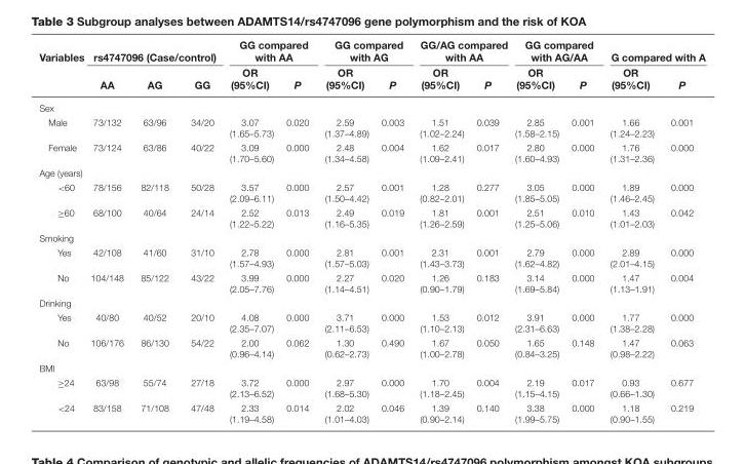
<table><thead><tr><td rowspan="2">Variables</td><td colspan="3">rs4747096 (Case/control)</td><td colspan="2">GG compared with AA</td><td colspan="2">GG compared with AG</td><td colspan="2">GG/AG compared with AA</td><td colspan="2">GG compared with AG/AA</td><td colspan="2">G compared with A</td></tr><tr><td>AA</td><td>AG</td><td>GG</td><td>OR (95%CI)</td><td>P</td><td>OR (95%CI)</td><td>P</td><td>OR (95%CI)</td><td>P</td><td>OR (95%CI)</td><td>P</td><td>OR (95%CI)</td><td>P</td></tr></thead><tbody><tr><td colspan="14">Sex</td></tr><tr><td>Male</td><td>73/132</td><td>63/96</td><td>34/20</td><td>3.07 (1.65–5.73)</td><td>0.020</td><td>2.59 (1.37–4.89)</td><td>0.003</td><td>1.51 (1.02–2.24)</td><td>0.039</td><td>2.85 (1.58–2.15)</td><td>0.001</td><td>1.66 (1.24–2.23)</td><td>0.001</td></tr><tr><td>Female</td><td>73/124</td><td>63/86</td><td>40/22</td><td>3.09 (1.70–5.60)</td><td>0.000</td><td>2.48 (1.34–4.58)</td><td>0.004</td><td>1.62 (1.09–2.41)</td><td>0.017</td><td>2.80 (1.60–4.93)</td><td>0.000</td><td>1.76 (1.31–2.36)</td><td>0.000</td></tr><tr><td colspan="14">Age (years)</td></tr><tr><td>&lt;60</td><td>78/156</td><td>82/118</td><td>50/28</td><td>3.57 (2.09–6.11)</td><td>0.000</td><td>2.57 (1.50–4.42)</td><td>0.001</td><td>1.28 (0.82–2.01)</td><td>0.277</td><td>3.05 (1.85–5.05)</td><td>0.000</td><td>1.89 (1.46–2.45)</td><td>0.000</td></tr><tr><td>≥60</td><td>68/100</td><td>40/64</td><td>24/14</td><td>2.52 (1.22–5.22)</td><td>0.013</td><td>2.49 (1.16–5.35)</td><td>0.019</td><td>1.81 (1.26–2.59)</td><td>0.001</td><td>2.51 (1.25–5.06)</td><td>0.010</td><td>1.43 (1.01–2.03)</td><td>0.042</td></tr><tr><td colspan="14">Smoking</td></tr><tr><td>Yes</td><td>42/108</td><td>41/60</td><td>31/10</td><td>2.78 (1.57–4.93)</td><td>0.000</td><td>2.81 (1.57–5.03)</td><td>0.001</td><td>2.31 (1.43–3.73)</td><td>0.001</td><td>2.79 (1.62–4.82)</td><td>0.000</td><td>2.89 (2.01–4.15)</td><td>0.000</td></tr><tr><td>No</td><td>104/148</td><td>85/122</td><td>43/22</td><td>3.99 (2.05–7.76)</td><td>0.000</td><td>2.27 (1.14–4.51)</td><td>0.020</td><td>1.26 (0.90–1.79)</td><td>0.183</td><td>3.14 (1.69–5.84)</td><td>0.000</td><td>1.47 (1.13–1.91)</td><td>0.004</td></tr><tr><td colspan="14">Drinking</td></tr><tr><td>Yes</td><td>40/80</td><td>40/52</td><td>20/10</td><td>4.08 (2.35–7.07)</td><td>0.000</td><td>3.71 (2.11–6.53)</td><td>0.000</td><td>1.53 (1.10–2.13)</td><td>0.012</td><td>3.91 (2.31–6.63)</td><td>0.000</td><td>1.77 (1.38–2.28)</td><td>0.000</td></tr><tr><td>No</td><td>106/176</td><td>86/130</td><td>54/22</td><td>2.00 (0.96–4.14)</td><td>0.062</td><td>1.30 (0.62–2.73)</td><td>0.490</td><td>1.67 (1.00–2.78)</td><td>0.050</td><td>1.65 (0.84–3.25)</td><td>0.148</td><td>1.47 (0.98–2.22)</td><td>0.063</td></tr><tr><td colspan="14">BMI</td></tr><tr><td>≥24</td><td>63/98</td><td>55/74</td><td>27/18</td><td>3.72 (2.13–6.52)</td><td>0.000</td><td>2.97 (1.68–5.30)</td><td>0.000</td><td>1.70 (1.18–2.45)</td><td>0.004</td><td>2.19 (1.15–4.15)</td><td>0.017</td><td>0.93 (0.66–1.30)</td><td>0.677</td></tr><tr><td>&lt;24</td><td>83/158</td><td>71/108</td><td>47/48</td><td>2.33 (1.19–4.58)</td><td>0.014</td><td>2.02 (1.01–4.03)</td><td>0.046</td><td>1.39 (0.90–2.14)</td><td>0.140</td><td>3.38 (1.99–5.75)</td><td>0.000</td><td>1.18 (0.90–1.55)</td><td>0.219</td></tr></tbody></table>